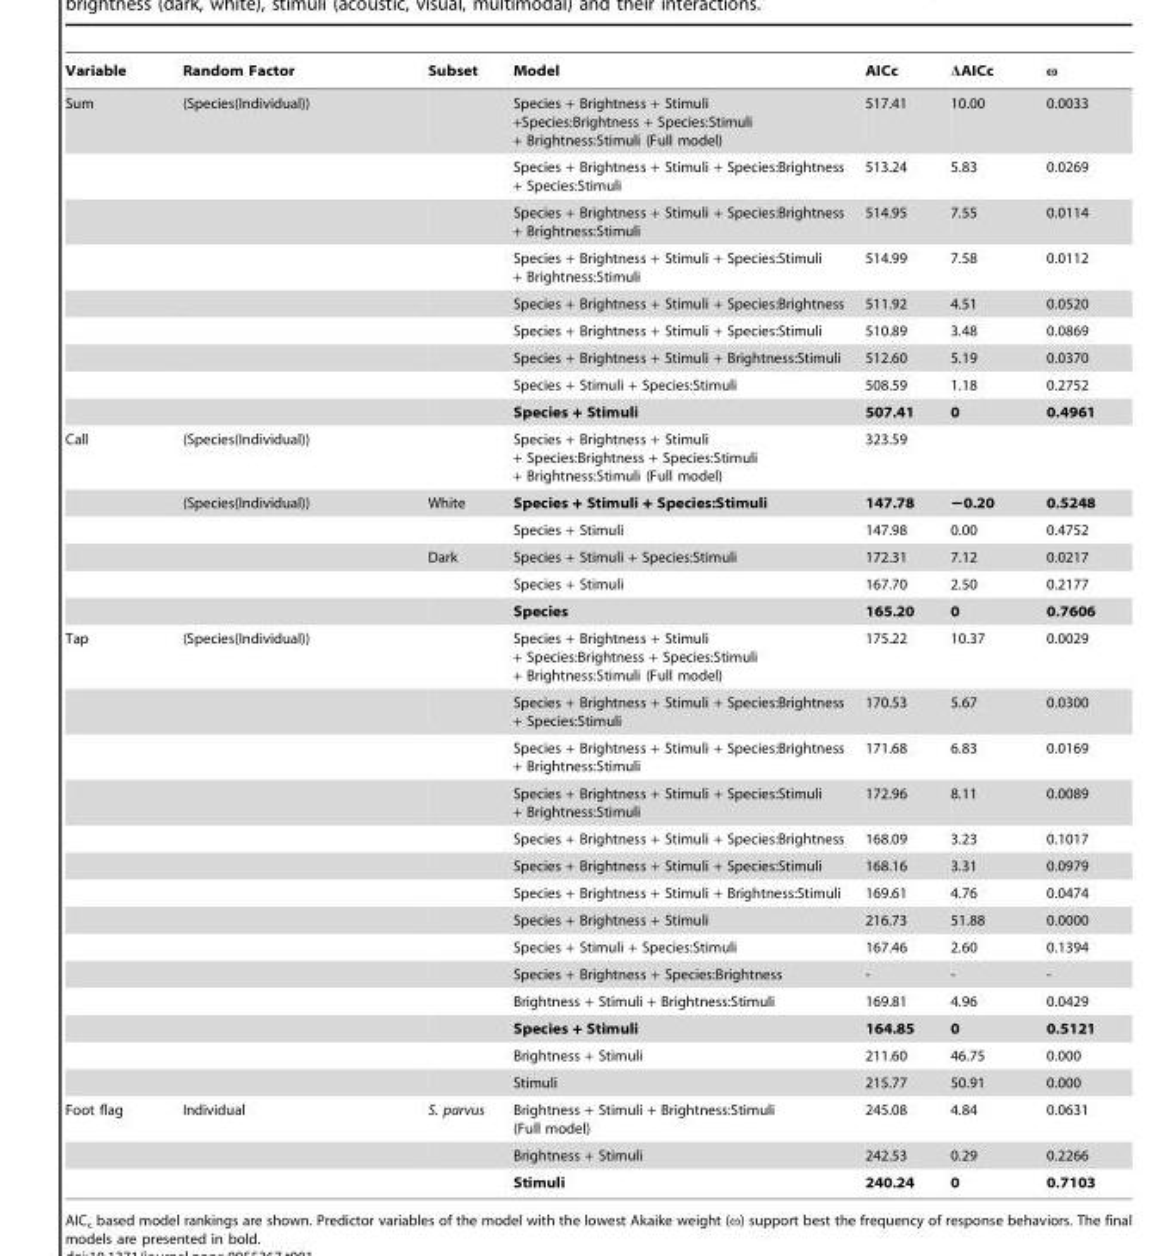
<table><thead><tr><td>Variable</td><td>Random Factor</td><td>Subset</td><td>Model</td><td>AICc</td><td>ΔAICc</td><td>ω</td></tr></thead><tbody><tr><td rowspan="9">Sum</td><td>(Species(Individual))</td><td></td><td>Species + Brightness + Stimuli +Species:Brightness + Species:Stimuli + Brightness:Stimuli (Full model)</td><td>517.41</td><td>10.00</td><td>0.0033</td></tr><tr><td></td><td></td><td>Species + Brightness + Stimuli + Species:Brightness + Species:Stimuli</td><td>513.24</td><td>5.83</td><td>0.0269</td></tr><tr><td></td><td></td><td>Species + Brightness + Stimuli + Species:Brightness + Brightness:Stimuli</td><td>514.95</td><td>7.55</td><td>0.0114</td></tr><tr><td></td><td></td><td>Species + Brightness + Stimuli + Species:Stimuli + Brightness:Stimuli</td><td>514.99</td><td>7.58</td><td>0.0112</td></tr><tr><td></td><td></td><td>Species + Brightness + Stimuli + Species:Brightness</td><td>511.92</td><td>4.51</td><td>0.0520</td></tr><tr><td></td><td></td><td>Species + Brightness + Stimuli + Species:Stimuli</td><td>510.89</td><td>3.48</td><td>0.0869</td></tr><tr><td></td><td></td><td>Species + Brightness + Stimuli + Brightness:Stimuli</td><td>512.60</td><td>5.19</td><td>0.0370</td></tr><tr><td></td><td></td><td>Species + Stimuli + Species:Stimuli</td><td>508.59</td><td>1.18</td><td>0.2752</td></tr><tr><td></td><td></td><td>Species + Stimuli</td><td>507.41</td><td>0</td><td>0.4961</td></tr><tr><td rowspan="6">Call</td><td>(Species(Individual))</td><td></td><td>Species + Brightness + Stimuli + Species:Brightness + Species:Stimuli + Brightness:Stimuli (Full model)</td><td>323.59</td><td></td><td></td></tr><tr><td>(Species(Individual))</td><td>White</td><td>Species + Stimuli + Species:Stimuli</td><td>147.78</td><td>−0.20</td><td>0.5248</td></tr><tr><td></td><td></td><td>Species + Stimuli</td><td>147.98</td><td>0.00</td><td>0.4752</td></tr><tr><td></td><td>Dark</td><td>Species + Stimuli + Species:Stimuli</td><td>172.31</td><td>7.12</td><td>0.0217</td></tr><tr><td></td><td></td><td>Species + Stimuli</td><td>167.70</td><td>2.50</td><td>0.2177</td></tr><tr><td></td><td></td><td>Species</td><td>165.20</td><td>0</td><td>0.7606</td></tr><tr><td rowspan="14">Tap</td><td>(Species(Individual))</td><td></td><td>Species + Brightness + Stimuli + Species:Brightness + Species:Stimuli + Brightness:Stimuli (Full model)</td><td>175.22</td><td>10.37</td><td>0.0029</td></tr><tr><td></td><td></td><td>Species + Brightness + Stimuli + Species:Brightness + Species:Stimuli</td><td>170.53</td><td>5.67</td><td>0.0300</td></tr><tr><td></td><td></td><td>Species + Brightness + Stimuli + Species:Brightness + Brightness:Stimuli</td><td>171.68</td><td>6.83</td><td>0.0169</td></tr><tr><td></td><td></td><td>Species + Brightness + Stimuli + Species:Stimuli + Brightness:Stimuli</td><td>172.96</td><td>8.11</td><td>0.0089</td></tr><tr><td></td><td></td><td>Species + Brightness + Stimuli + Species:Brightness</td><td>168.09</td><td>3.23</td><td>0.1017</td></tr><tr><td></td><td></td><td>Species + Brightness + Stimuli + Species:Stimuli</td><td>168.16</td><td>3.31</td><td>0.0979</td></tr><tr><td></td><td></td><td>Species + Brightness + Stimuli + Brightness:Stimuli</td><td>169.61</td><td>4.76</td><td>0.0474</td></tr><tr><td></td><td></td><td>Species + Brightness + Stimuli</td><td>216.73</td><td>51.88</td><td>0.0000</td></tr><tr><td></td><td></td><td>Species + Stimuli + Species:Stimuli</td><td>167.46</td><td>2.60</td><td>0.1394</td></tr><tr><td></td><td></td><td>Species + Brightness + Species:Brightness</td><td>-</td><td>-</td><td>-</td></tr><tr><td></td><td></td><td>Brightness + Stimuli + Brightness:Stimuli</td><td>169.81</td><td>4.96</td><td>0.0429</td></tr><tr><td></td><td></td><td>Species + Stimuli</td><td>164.85</td><td>0</td><td>0.5121</td></tr><tr><td></td><td></td><td>Brightness + Stimuli</td><td>211.60</td><td>46.75</td><td>0.000</td></tr><tr><td></td><td></td><td>Stimuli</td><td>215.77</td><td>50.91</td><td>0.000</td></tr><tr><td rowspan="3">Foot flag</td><td>Individual</td><td>S. parvus</td><td>Brightness + Stimuli + Brightness:Stimuli (Full model)</td><td>245.08</td><td>4.84</td><td>0.0631</td></tr><tr><td></td><td></td><td>Brightness + Stimuli</td><td>242.53</td><td>0.29</td><td>0.2266</td></tr><tr><td></td><td></td><td>Stimuli</td><td>240.24</td><td>0</td><td>0.7103</td></tr></tbody></table>